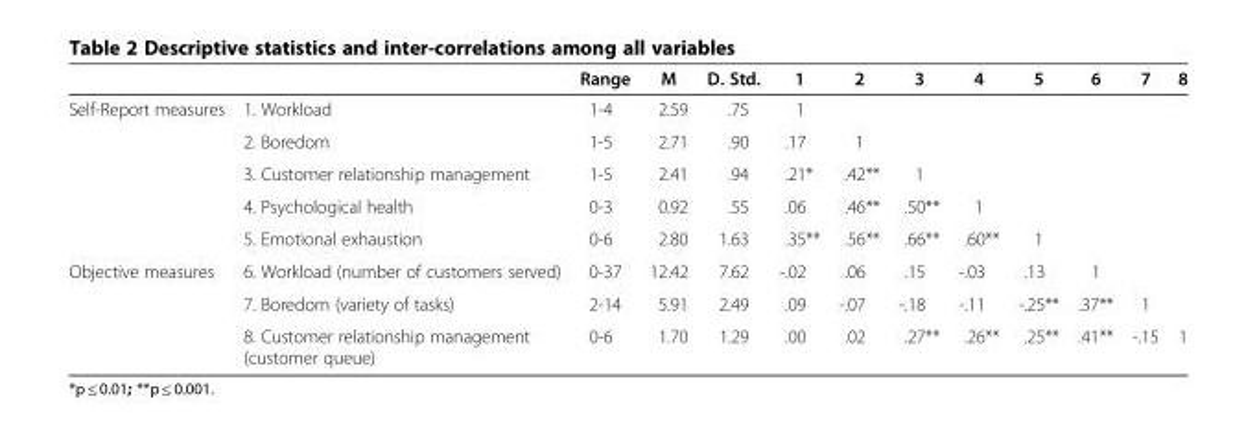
<table><thead><tr><td></td><td></td><td>Range</td><td>M</td><td>D. Std.</td><td>1</td><td>2</td><td>3</td><td>4</td><td>5</td><td>6</td><td>7</td><td>8</td></tr></thead><tbody><tr><td rowspan="5">Self-Report measures</td><td>1. Workload</td><td>1-4</td><td>2.59</td><td>.75</td><td>1</td><td></td><td></td><td></td><td></td><td></td><td></td><td></td></tr><tr><td>2. Boredom</td><td>1-5</td><td>2.71</td><td>.90</td><td>.17</td><td>1</td><td></td><td></td><td></td><td></td><td></td><td></td></tr><tr><td>3. Customer relationship management</td><td>1-5</td><td>2.41</td><td>.94</td><td>.21*</td><td>.42**</td><td>1</td><td></td><td></td><td></td><td></td><td></td></tr><tr><td>4. Psychological health</td><td>0-3</td><td>0.92</td><td>.55</td><td>.06</td><td>.46**</td><td>.50**</td><td>1</td><td></td><td></td><td></td><td></td></tr><tr><td>5. Emotional exhaustion</td><td>0-6</td><td>2.80</td><td>1.63</td><td>.35**</td><td>.56**</td><td>.66**</td><td>.60**</td><td>1</td><td></td><td></td><td></td></tr><tr><td rowspan="3">Objective measures</td><td>6. Workload (number of customers served)</td><td>0-37</td><td>12.42</td><td>7.62</td><td>-.02</td><td>.06</td><td>.15</td><td>-.03</td><td>.13</td><td>1</td><td></td><td></td></tr><tr><td>7. Boredom (variety of tasks)</td><td>2-14</td><td>5.91</td><td>2.49</td><td>.09</td><td>-.07</td><td>-.18</td><td>-.11</td><td>-.25**</td><td>.37**</td><td>1</td><td></td></tr><tr><td>8. Customer relationship management (customer queue)</td><td>0-6</td><td>1.70</td><td>1.29</td><td>.00</td><td>.02</td><td>.27**</td><td>.26**</td><td>.25**</td><td>.41**</td><td>-.15</td><td>1</td></tr></tbody></table>